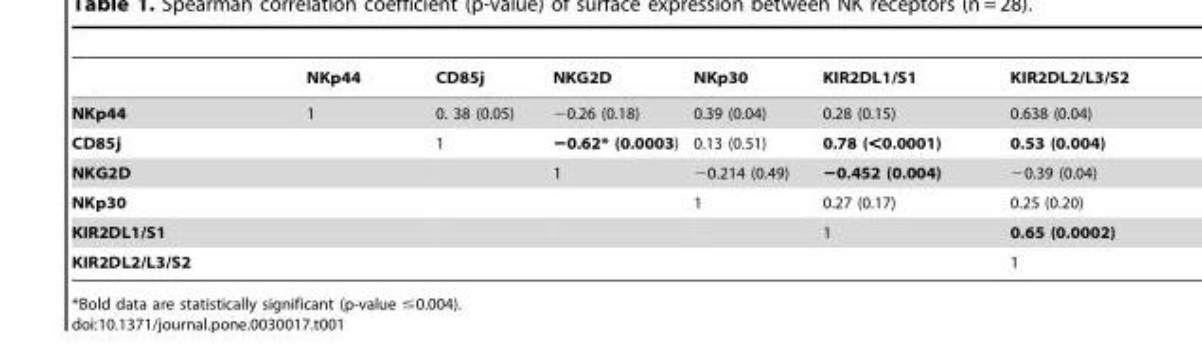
<table><thead><tr><td></td><td>NKp44</td><td>CD85j</td><td>NKG2D</td><td>NKp30</td><td>KIR2DL1/S1</td><td>KIR2DL2/L3/S2</td></tr></thead><tbody><tr><td>NKp44</td><td>1</td><td>0. 38 (0.05)</td><td>−0.26 (0.18)</td><td>0.39 (0.04)</td><td>0.28 (0.15)</td><td>0.638 (0.04)</td></tr><tr><td>CD85j</td><td></td><td>1</td><td>−0.62* (0.0003)</td><td>0.13 (0.51)</td><td>0.78 (&lt;0.0001)</td><td>0.53 (0.004)</td></tr><tr><td>NKG2D</td><td></td><td></td><td>1</td><td>−0.214 (0.49)</td><td>−0.452 (0.004)</td><td>−0.39 (0.04)</td></tr><tr><td>NKp30</td><td></td><td></td><td></td><td>1</td><td>0.27 (0.17)</td><td>0.25 (0.20)</td></tr><tr><td>KIR2DL1/S1</td><td></td><td></td><td></td><td></td><td>1</td><td>0.65 (0.0002)</td></tr><tr><td>KIR2DL2/L3/S2</td><td></td><td></td><td></td><td></td><td></td><td>1</td></tr></tbody></table>